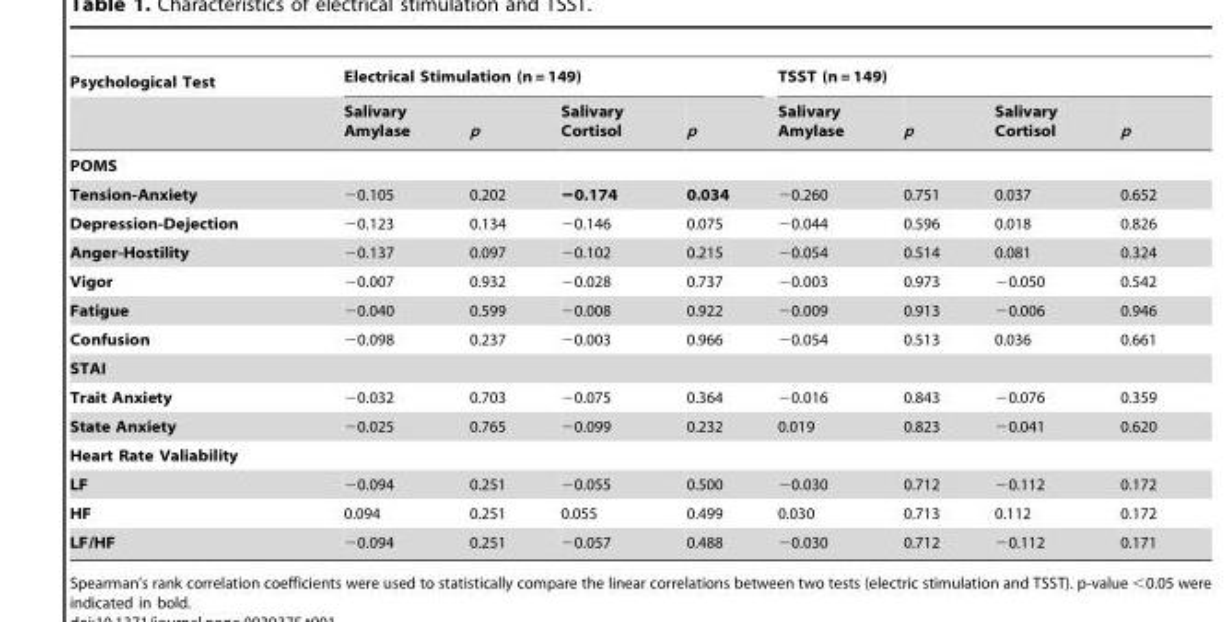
<table><thead><tr><td rowspan="2">Psychological Test</td><td colspan="4">Electrical Stimulation (n = 149)</td><td colspan="4">TSST (n = 149)</td></tr><tr><td>Salivary Amylase</td><td>p</td><td>Salivary Cortisol</td><td>p</td><td>Salivary Amylase</td><td>p</td><td>Salivary Cortisol</td><td>p</td></tr></thead><tbody><tr><td colspan="9">POMS</td></tr><tr><td>Tension-Anxiety</td><td>−0.105</td><td>0.202</td><td>−0.174</td><td>0.034</td><td>−0.260</td><td>0.751</td><td>0.037</td><td>0.652</td></tr><tr><td>Depression-Dejection</td><td>−0.123</td><td>0.134</td><td>−0.146</td><td>0.075</td><td>−0.044</td><td>0.596</td><td>0.018</td><td>0.826</td></tr><tr><td>Anger-Hostility</td><td>−0.137</td><td>0.097</td><td>−0.102</td><td>0.215</td><td>−0.054</td><td>0.514</td><td>0.081</td><td>0.324</td></tr><tr><td>Vigor</td><td>−0.007</td><td>0.932</td><td>−0.028</td><td>0.737</td><td>−0.003</td><td>0.973</td><td>−0.050</td><td>0.542</td></tr><tr><td>Fatigue</td><td>−0.040</td><td>0.599</td><td>−0.008</td><td>0.922</td><td>−0.009</td><td>0.913</td><td>−0.006</td><td>0.946</td></tr><tr><td>Confusion</td><td>−0.098</td><td>0.237</td><td>−0.003</td><td>0.966</td><td>−0.054</td><td>0.513</td><td>0.036</td><td>0.661</td></tr><tr><td colspan="9">STAI</td></tr><tr><td>Trait Anxiety</td><td>−0.032</td><td>0.703</td><td>−0.075</td><td>0.364</td><td>−0.016</td><td>0.843</td><td>−0.076</td><td>0.359</td></tr><tr><td>State Anxiety</td><td>−0.025</td><td>0.765</td><td>−0.099</td><td>0.232</td><td>0.019</td><td>0.823</td><td>−0.041</td><td>0.620</td></tr><tr><td colspan="9">Heart Rate Valiability</td></tr><tr><td>LF</td><td>−0.094</td><td>0.251</td><td>−0.055</td><td>0.500</td><td>−0.030</td><td>0.712</td><td>−0.112</td><td>0.172</td></tr><tr><td>HF</td><td>0.094</td><td>0.251</td><td>0.055</td><td>0.499</td><td>0.030</td><td>0.713</td><td>0.112</td><td>0.172</td></tr><tr><td>LF/HF</td><td>−0.094</td><td>0.251</td><td>−0.057</td><td>0.488</td><td>−0.030</td><td>0.712</td><td>−0.112</td><td>0.171</td></tr></tbody></table>